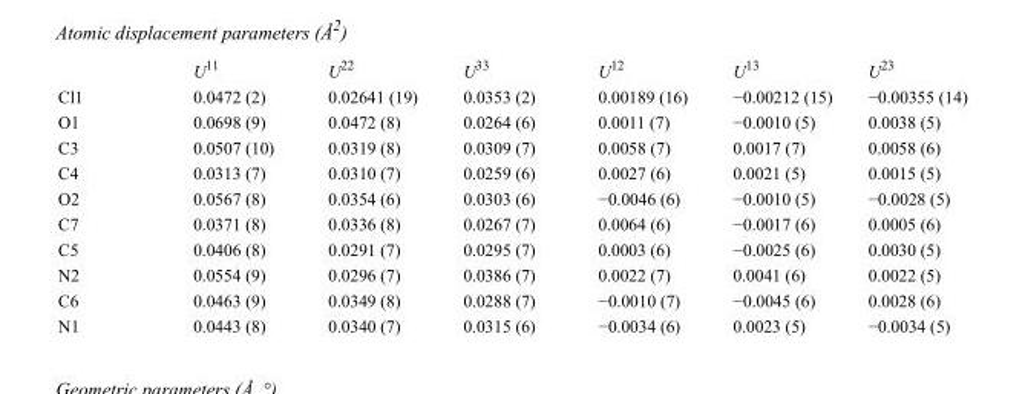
<table><thead><tr><td></td><td>U<sup>11</sup></td><td>U<sup>22</sup></td><td>U<sup>33</sup></td><td>U<sup>12</sup></td><td>U<sup>13</sup></td><td>U<sup>23</sup></td></tr></thead><tbody><tr><td>Cl1</td><td>0.0472 (2)</td><td>0.02641 (19)</td><td>0.0353 (2)</td><td>0.00189 (16)</td><td>−0.00212 (15)</td><td>−0.00355 (14)</td></tr><tr><td>O1</td><td>0.0698 (9)</td><td>0.0472 (8)</td><td>0.0264 (6)</td><td>0.0011 (7)</td><td>−0.0010 (5)</td><td>0.0038 (5)</td></tr><tr><td>C3</td><td>0.0507 (10)</td><td>0.0319 (8)</td><td>0.0309 (7)</td><td>0.0058 (7)</td><td>0.0017 (7)</td><td>0.0058 (6)</td></tr><tr><td>C4</td><td>0.0313 (7)</td><td>0.0310 (7)</td><td>0.0259 (6)</td><td>0.0027 (6)</td><td>0.0021 (5)</td><td>0.0015 (5)</td></tr><tr><td>O2</td><td>0.0567 (8)</td><td>0.0354 (6)</td><td>0.0303 (6)</td><td>−0.0046 (6)</td><td>−0.0010 (5)</td><td>−0.0028 (5)</td></tr><tr><td>C7</td><td>0.0371 (8)</td><td>0.0336 (8)</td><td>0.0267 (7)</td><td>0.0064 (6)</td><td>−0.0017 (6)</td><td>0.0005 (6)</td></tr><tr><td>C5</td><td>0.0406 (8)</td><td>0.0291 (7)</td><td>0.0295 (7)</td><td>0.0003 (6)</td><td>−0.0025 (6)</td><td>0.0030 (5)</td></tr><tr><td>N2</td><td>0.0554 (9)</td><td>0.0296 (7)</td><td>0.0386 (7)</td><td>0.0022 (7)</td><td>0.0041 (6)</td><td>0.0022 (5)</td></tr><tr><td>C6</td><td>0.0463 (9)</td><td>0.0349 (8)</td><td>0.0288 (7)</td><td>−0.0010 (7)</td><td>−0.0045 (6)</td><td>0.0028 (6)</td></tr><tr><td>N1</td><td>0.0443 (8)</td><td>0.0340 (7)</td><td>0.0315 (6)</td><td>−0.0034 (6)</td><td>0.0023 (5)</td><td>−0.0034 (5)</td></tr></tbody></table>